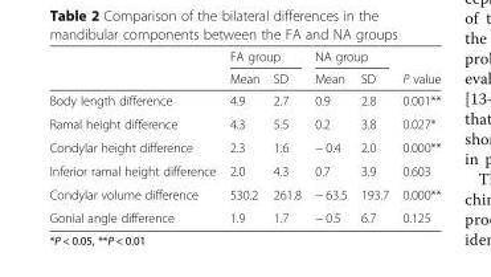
<table><thead><tr><td rowspan="2"></td><td colspan="2">FA group</td><td colspan="2">NA group</td><td rowspan="2">P value</td></tr><tr><td>Mean</td><td>SD</td><td>Mean</td><td>SD</td></tr></thead><tbody><tr><td>Body length difference</td><td>4.9</td><td>2.7</td><td>0.9</td><td>2.8</td><td>0.001**</td></tr><tr><td>Ramal height difference</td><td>4.3</td><td>5.5</td><td>0.2</td><td>3.8</td><td>0.027*</td></tr><tr><td>Condylar height difference</td><td>2.3</td><td>1.6</td><td>− 0.4</td><td>2.0</td><td>0.000**</td></tr><tr><td>Inferior ramal height difference</td><td>2.0</td><td>4.3</td><td>0.7</td><td>3.9</td><td>0.603</td></tr><tr><td>Condylar volume difference</td><td>530.2</td><td>261.8</td><td>− 63.5</td><td>193.7</td><td>0.000**</td></tr><tr><td>Gonial angle difference</td><td>1.9</td><td>1.7</td><td>− 0.5</td><td>6.7</td><td>0.125</td></tr></tbody></table>